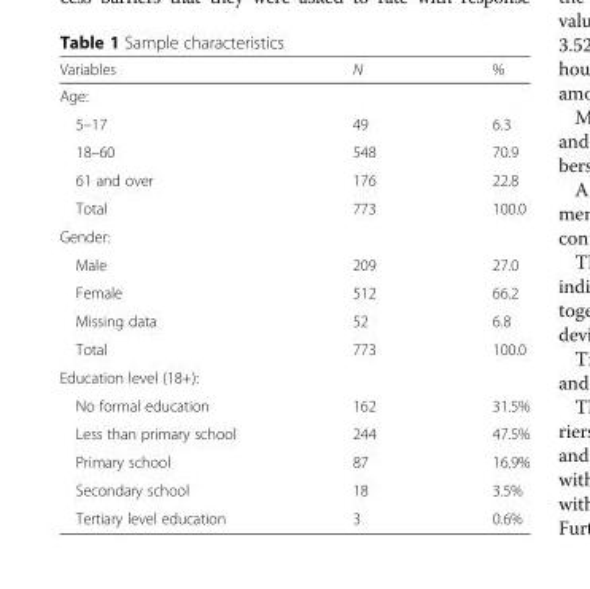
<table><thead><tr><td>Variables</td><td>N</td><td>%</td></tr></thead><tbody><tr><td colspan="3">Age:</td></tr><tr><td>5–17</td><td>49</td><td>6.3</td></tr><tr><td>18–60</td><td>548</td><td>70.9</td></tr><tr><td>61 and over</td><td>176</td><td>22.8</td></tr><tr><td>Total</td><td>773</td><td>100.0</td></tr><tr><td colspan="3">Gender:</td></tr><tr><td>Male</td><td>209</td><td>27.0</td></tr><tr><td>Female</td><td>512</td><td>66.2</td></tr><tr><td>Missing data</td><td>52</td><td>6.8</td></tr><tr><td>Total</td><td>773</td><td>100.0</td></tr><tr><td colspan="3">Education level (18+):</td></tr><tr><td>No formal education</td><td>162</td><td>31.5%</td></tr><tr><td>Less than primary school</td><td>244</td><td>47.5%</td></tr><tr><td>Primary school</td><td>87</td><td>16.9%</td></tr><tr><td>Secondary school</td><td>18</td><td>3.5%</td></tr><tr><td>Tertiary level education</td><td>3</td><td>0.6%</td></tr></tbody></table>